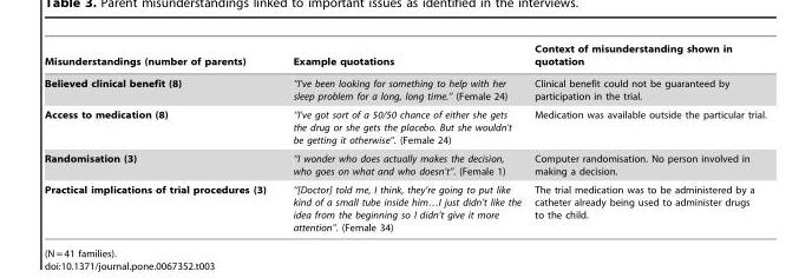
<table><thead><tr><td>Misunderstandings (number of parents)</td><td>Example quotations</td><td>Context of misunderstanding shown in quotation</td></tr></thead><tbody><tr><td>Believed clinical benefit (8)</td><td>‘‘I’ve been looking for something to help with her sleep problem for a long, long time.’’ (Female 24)</td><td>Clinical benefit could not be guaranteed by participation in the trial.</td></tr><tr><td>Access to medication (8)</td><td>‘‘I’ve got sort of a 50/50 chance of either she gets the drug or she gets the placebo. But she wouldn’t be getting it otherwise’’. (Female 24)</td><td>Medication was available outside the particular trial.</td></tr><tr><td>Randomisation (3)</td><td>‘‘I wonder who does actually makes the decision, who goes on what and who doesn’t’’. (Female 1)</td><td>Computer randomisation. No person involved in making a decision.</td></tr><tr><td>Practical implications of trial procedures (3)</td><td>‘‘[Doctor] told me, I think, they’re going to put like kind of a small tube inside him…I just didn’t like the idea from the beginning so I didn’t give it more attention’’. (Female 34)</td><td>The trial medication was to be administered by a catheter already being used to administer drugs to the child.</td></tr></tbody></table>